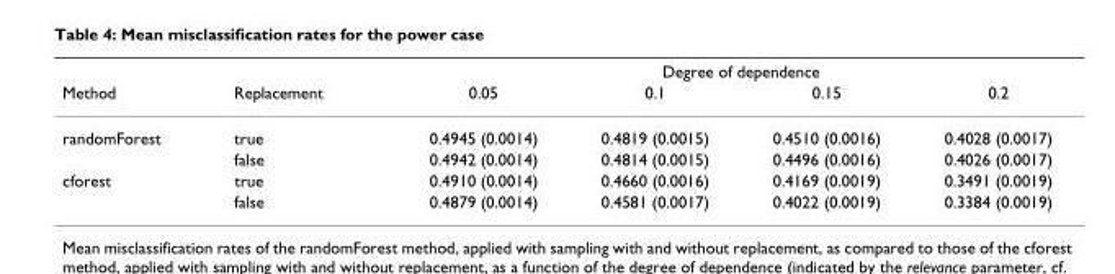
<table><thead><tr><td rowspan="2">Method</td><td rowspan="2">Replacement</td><td colspan="4">Degree of dependence</td></tr><tr><td>0.05</td><td>0.1</td><td>0.15</td><td>0.2</td></tr></thead><tbody><tr><td rowspan="2">randomForest</td><td>true</td><td>0.4945 (0.0014)</td><td>0.4819 (0.0015)</td><td>0.4510 (0.0016)</td><td>0.4028 (0.0017)</td></tr><tr><td>false</td><td>0.4942 (0.0014)</td><td>0.4814 (0.0015)</td><td>0.4496 (0.0016)</td><td>0.4026 (0.0017)</td></tr><tr><td rowspan="2">cforest</td><td>true</td><td>0.4910 (0.0014)</td><td>0.4660 (0.0016)</td><td>0.4169 (0.0019)</td><td>0.3491 (0.0019)</td></tr><tr><td>false</td><td>0.4879 (0.0014)</td><td>0.4581 (0.0017)</td><td>0.4022 (0.0019)</td><td>0.3384 (0.0019)</td></tr></tbody></table>